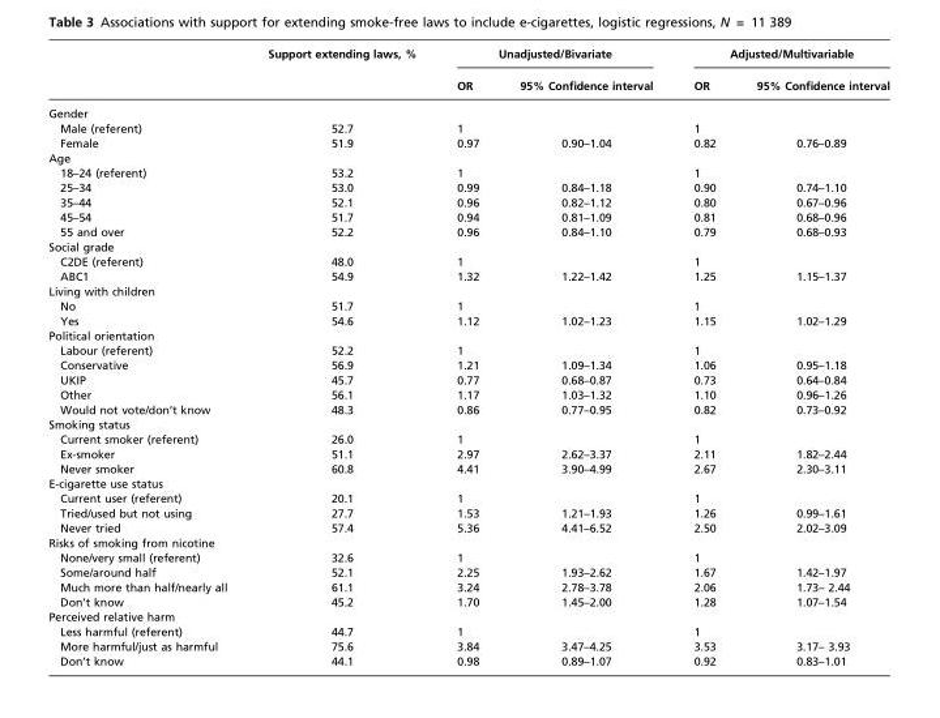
<table><thead><tr><td rowspan="2"></td><td rowspan="2">Support extending laws, %</td><td colspan="2">Unadjusted/Bivariate</td><td colspan="2">Adjusted/Multivariable</td></tr><tr><td>OR</td><td>95% Confidence interval</td><td>OR</td><td>95% Confidence interval</td></tr></thead><tbody><tr><td colspan="6">Gender</td></tr><tr><td>Male (referent)</td><td>52.7</td><td>1</td><td></td><td>1</td><td></td></tr><tr><td>Female</td><td>51.9</td><td>0.97</td><td>0.90–1.04</td><td>0.82</td><td>0.76–0.89</td></tr><tr><td colspan="6">Age</td></tr><tr><td>18–24 (referent)</td><td>53.2</td><td>1</td><td></td><td>1</td><td></td></tr><tr><td>25–34</td><td>53.0</td><td>0.99</td><td>0.84–1.18</td><td>0.90</td><td>0.74–1.10</td></tr><tr><td>35–44</td><td>52.1</td><td>0.96</td><td>0.82–1.12</td><td>0.80</td><td>0.67–0.96</td></tr><tr><td>45–54</td><td>51.7</td><td>0.94</td><td>0.81–1.09</td><td>0.81</td><td>0.68–0.96</td></tr><tr><td>55 and over</td><td>52.2</td><td>0.96</td><td>0.84–1.10</td><td>0.79</td><td>0.68–0.93</td></tr><tr><td colspan="6">Social grade</td></tr><tr><td>C2DE (referent)</td><td>48.0</td><td>1</td><td></td><td>1</td><td></td></tr><tr><td>ABC1</td><td>54.9</td><td>1.32</td><td>1.22–1.42</td><td>1.25</td><td>1.15–1.37</td></tr><tr><td colspan="6">Living with children</td></tr><tr><td>No</td><td>51.7</td><td>1</td><td></td><td>1</td><td></td></tr><tr><td>Yes</td><td>54.6</td><td>1.12</td><td>1.02–1.23</td><td>1.15</td><td>1.02–1.29</td></tr><tr><td colspan="6">Political orientation</td></tr><tr><td>Labour (referent)</td><td>52.2</td><td>1</td><td></td><td>1</td><td></td></tr><tr><td>Conservative</td><td>56.9</td><td>1.21</td><td>1.09–1.34</td><td>1.06</td><td>0.95–1.18</td></tr><tr><td>UKIP</td><td>45.7</td><td>0.77</td><td>0.68–0.87</td><td>0.73</td><td>0.64–0.84</td></tr><tr><td>Other</td><td>56.1</td><td>1.17</td><td>1.03–1.32</td><td>1.10</td><td>0.96–1.26</td></tr><tr><td>Would not vote/don’t know</td><td>48.3</td><td>0.86</td><td>0.77–0.95</td><td>0.82</td><td>0.73–0.92</td></tr><tr><td colspan="6">Smoking status</td></tr><tr><td>Current smoker (referent)</td><td>26.0</td><td>1</td><td></td><td>1</td><td></td></tr><tr><td>Ex-smoker</td><td>51.1</td><td>2.97</td><td>2.62–3.37</td><td>2.11</td><td>1.82–2.44</td></tr><tr><td>Never smoker</td><td>60.8</td><td>4.41</td><td>3.90–4.99</td><td>2.67</td><td>2.30–3.11</td></tr><tr><td colspan="6">E-cigarette use status</td></tr><tr><td>Current user (referent)</td><td>20.1</td><td>1</td><td></td><td>1</td><td></td></tr><tr><td>Tried/used but not using</td><td>27.7</td><td>1.53</td><td>1.21–1.93</td><td>1.26</td><td>0.99–1.61</td></tr><tr><td>Never tried</td><td>57.4</td><td>5.36</td><td>4.41–6.52</td><td>2.50</td><td>2.02–3.09</td></tr><tr><td colspan="6">Risks of smoking from nicotine</td></tr><tr><td>None/very small (referent)</td><td>32.6</td><td>1</td><td></td><td>1</td><td></td></tr><tr><td>Some/around half</td><td>52.1</td><td>2.25</td><td>1.93–2.62</td><td>1.67</td><td>1.42–1.97</td></tr><tr><td>Much more than half/nearly all</td><td>61.1</td><td>3.24</td><td>2.78–3.78</td><td>2.06</td><td>1.73– 2.44</td></tr><tr><td>Don’t know</td><td>45.2</td><td>1.70</td><td>1.45–2.00</td><td>1.28</td><td>1.07–1.54</td></tr><tr><td colspan="6">Perceived relative harm</td></tr><tr><td>Less harmful (referent)</td><td>44.7</td><td>1</td><td></td><td>1</td><td></td></tr><tr><td>More harmful/just as harmful</td><td>75.6</td><td>3.84</td><td>3.47–4.25</td><td>3.53</td><td>3.17– 3.93</td></tr><tr><td>Don’t know</td><td>44.1</td><td>0.98</td><td>0.89–1.07</td><td>0.92</td><td>0.83–1.01</td></tr></tbody></table>